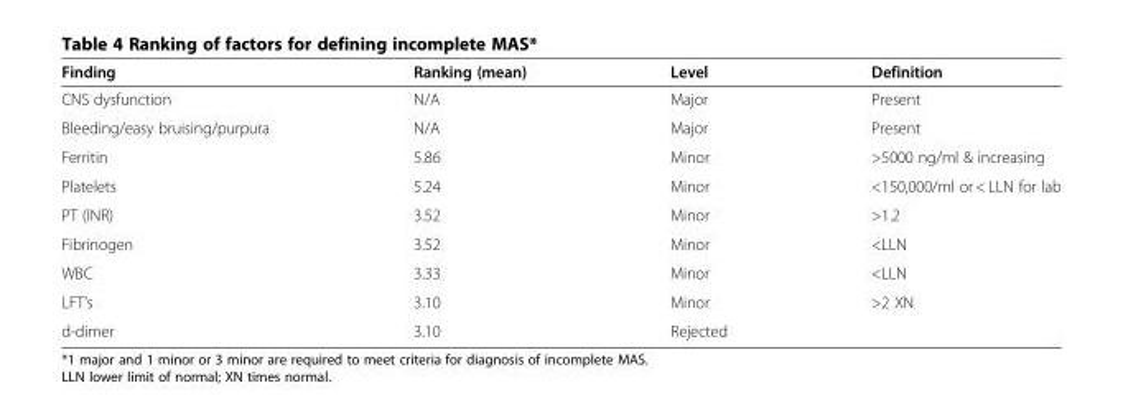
<table><thead><tr><td>Finding</td><td>Ranking (mean)</td><td>Level</td><td>Definition</td></tr></thead><tbody><tr><td>CNS dysfunction</td><td>N/A</td><td>Major</td><td>Present</td></tr><tr><td>Bleeding/easy bruising/purpura</td><td>N/A</td><td>Major</td><td>Present</td></tr><tr><td>Ferritin</td><td>5.86</td><td>Minor</td><td>&gt;5000 ng/ml &amp; increasing</td></tr><tr><td>Platelets</td><td>5.24</td><td>Minor</td><td>&lt;150,000/ml or &lt; LLN for lab</td></tr><tr><td>PT (INR)</td><td>3.52</td><td>Minor</td><td>&gt;1.2</td></tr><tr><td>Fibrinogen</td><td>3.52</td><td>Minor</td><td>&lt;LLN</td></tr><tr><td>WBC</td><td>3.33</td><td>Minor</td><td>&lt;LLN</td></tr><tr><td>LFT’s</td><td>3.10</td><td>Minor</td><td>&gt;2 XN</td></tr><tr><td>d-dimer</td><td>3.10</td><td>Rejected</td><td></td></tr></tbody></table>